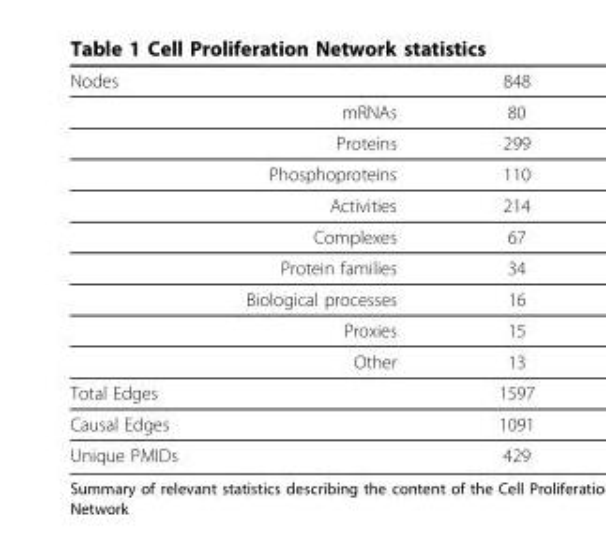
<table><thead><tr><td>Nodes</td><td>848</td></tr></thead><tbody><tr><td>mRNAs</td><td>80</td></tr><tr><td>Proteins</td><td>299</td></tr><tr><td>Phosphoproteins</td><td>110</td></tr><tr><td>Activities</td><td>214</td></tr><tr><td>Complexes</td><td>67</td></tr><tr><td>Protein families</td><td>34</td></tr><tr><td>Biological processes</td><td>16</td></tr><tr><td>Proxies</td><td>15</td></tr><tr><td>Other</td><td>13</td></tr><tr><td>Total Edges</td><td>1597</td></tr><tr><td>Causal Edges</td><td>1091</td></tr><tr><td>Unique PMIDs</td><td>429</td></tr></tbody></table>